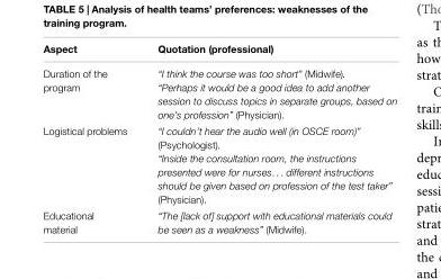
<table><thead><tr><td>Aspect</td><td>Quotation (professional)</td></tr></thead><tbody><tr><td>Duration of the program</td><td>“I think the course was too short” (Midwife). “Perhaps it would be a good idea to add another session to discuss topics in separate groups, based on one’s profession” (Physician).</td></tr><tr><td>Logistical problems</td><td>“I couldn’t hear the audio well (in OSCE room)” (Psychologist). “Inside the consultation room, the instructions presented were for nurses. . . different instructions should be given based on profession of the test taker” (Physician).</td></tr><tr><td>Educational material</td><td>“The [lack of] support with educational materials could be seen as a weakness” (Midwife).</td></tr></tbody></table>